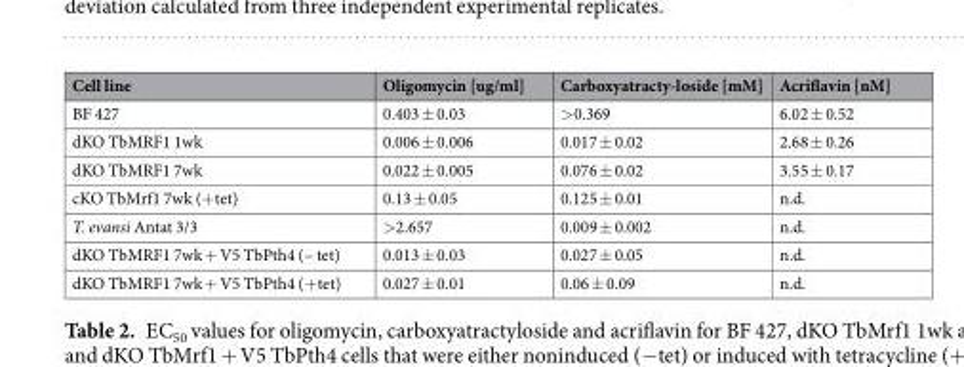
<table><thead><tr><td>Cell line</td><td>Oligomycin [ug/ml]</td><td>Carboxyatracty-loside [mM]</td><td>Acriflavin [nM]</td></tr></thead><tbody><tr><td>BF 427</td><td>0.403 ± 0.03</td><td>&gt;0.369</td><td>6.02 ± 0.52</td></tr><tr><td>dKO TbMRF1 1wk</td><td>0.006 ± 0.006</td><td>0.017 ± 0.02</td><td>2.68 ± 0.26</td></tr><tr><td>dKO TbMRF1 7wk</td><td>0.022 ± 0.005</td><td>0.076 ± 0.02</td><td>3.55 ± 0.17</td></tr><tr><td>cKO TbMrf1 7wk (+tet)</td><td>0.13 ± 0.05</td><td>0.125 ± 0.01</td><td>n.d.</td></tr><tr><td>T. evansi Antat 3/3</td><td>&gt;2.657</td><td>0.009 ± 0.002</td><td>n.d.</td></tr><tr><td>dKO TbMRF1 7wk + V5 TbPth4 (– tet)</td><td>0.013 ± 0.03</td><td>0.027 ± 0.05</td><td>n.d.</td></tr><tr><td>dKO TbMRF1 7wk + V5 TbPth4 (+tet)</td><td>0.027 ± 0.01</td><td>0.06 ± 0.09</td><td>n.d.</td></tr></tbody></table>